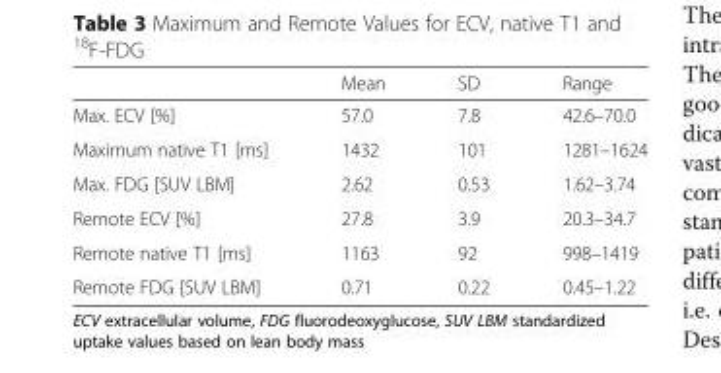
<table><thead><tr><td></td><td>Mean</td><td>SD</td><td>Range</td></tr></thead><tbody><tr><td>Max. ECV [%]</td><td>57.0</td><td>7.8</td><td>42.6–70.0</td></tr><tr><td>Maximum native T1 [ms]</td><td>1432</td><td>101</td><td>1281–1624</td></tr><tr><td>Max. FDG [SUV LBM]</td><td>2.62</td><td>0.53</td><td>1.62–3.74</td></tr><tr><td>Remote ECV [%]</td><td>27.8</td><td>3.9</td><td>20.3–34.7</td></tr><tr><td>Remote native T1 [ms]</td><td>1163</td><td>92</td><td>998–1419</td></tr><tr><td>Remote FDG [SUV LBM]</td><td>0.71</td><td>0.22</td><td>0.45–1.22</td></tr></tbody></table>